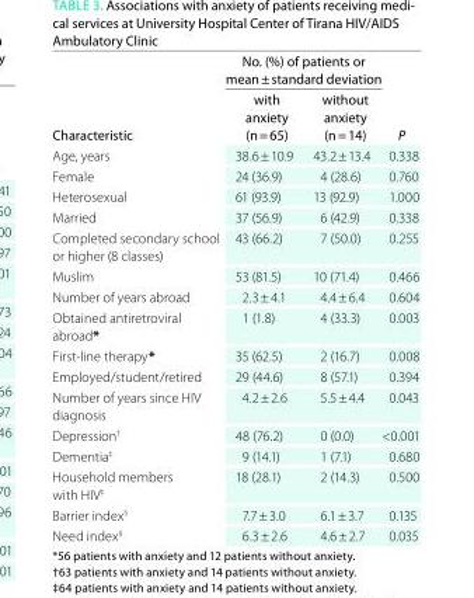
<table><thead><tr><td rowspan="2">Characteristic</td><td colspan="2">no. (%) of patients or mean ± standard deviation</td><td rowspan="2">P</td></tr><tr><td>with anxiety (n = 65)</td><td>without anxiety (n = 14)</td></tr></thead><tbody><tr><td>Age, years</td><td>38.6 ± 10.9</td><td>43.2 ± 13.4</td><td>0.338</td></tr><tr><td>Female</td><td>24 (36.9)</td><td>4 (28.6)</td><td>0.760</td></tr><tr><td>Heterosexual</td><td>61 (93.9)</td><td>13 (92.9)</td><td>1.000</td></tr><tr><td>Married</td><td>37 (56.9)</td><td>6 (42.9)</td><td>0.338</td></tr><tr><td>Completed secondary school or higher (8 classes)</td><td>43 (66.2)</td><td>7 (50.0)</td><td>0.255</td></tr><tr><td>Muslim</td><td>53 (81.5)</td><td>10 (71.4)</td><td>0.466</td></tr><tr><td>Number of years abroad</td><td>2.3 ± 4.1</td><td>4.4 ± 6.4</td><td>0.604</td></tr><tr><td>Obtained antiretroviral abroad*</td><td>1 (1.8)</td><td>4 (33.3)</td><td>0.003</td></tr><tr><td>First-line therapy*</td><td>35 (62.5)</td><td>2 (16.7)</td><td>0.008</td></tr><tr><td>Employed/student/retired</td><td>29 (44.6)</td><td>8 (57.1)</td><td>0.394</td></tr><tr><td>Number of years since HIV diagnosis</td><td>4.2 ± 2.6</td><td>5.5 ± 4.4</td><td>0.043</td></tr><tr><td>Depression<sup>†</sup></td><td>48 (76.2)</td><td>0 (0.0)</td><td>&lt;0.001</td></tr><tr><td>Dementia<sup>‡</sup></td><td>9 (14.1)</td><td>1 (7.1)</td><td>0.680</td></tr><tr><td>Household members with HIV<sup>‡</sup></td><td>18 (28.1)</td><td>2 (14.3)</td><td>0.500</td></tr><tr><td>Barrier index<sup>§</sup></td><td>7.7 ± 3.0</td><td>6.1 ± 3.7</td><td>0.135</td></tr><tr><td>Need index<sup>II</sup></td><td>6.3 ± 2.6</td><td>4.6 ± 2.7</td><td>0.035</td></tr></tbody></table>